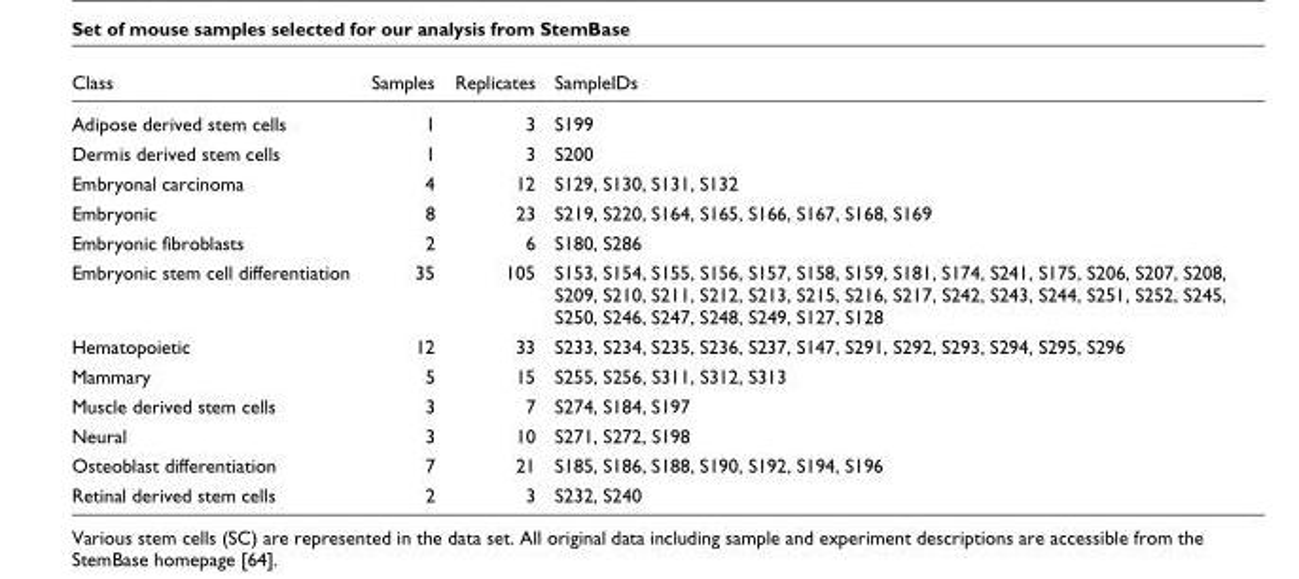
<table><thead><tr><td>Class</td><td>Samples</td><td>Replicates</td><td>SampleIDs</td></tr></thead><tbody><tr><td>Adipose derived stem cells</td><td>1</td><td>3</td><td>S199</td></tr><tr><td>Dermis derived stem cells</td><td>1</td><td>3</td><td>S200</td></tr><tr><td>Embryonal carcinoma</td><td>4</td><td>12</td><td>S129, S130, S131, S132</td></tr><tr><td>Embryonic</td><td>8</td><td>23</td><td>S219, S220, S164, S165, S166, S167, S168, S169</td></tr><tr><td>Embryonic fibroblasts</td><td>2</td><td>6</td><td>S180, S286</td></tr><tr><td>Embryonic stem cell differentiation</td><td>35</td><td>105</td><td>S153, S154, S155, S156, S157, S158, S159, S181, S174, S241, S175, S206, S207, S208, S209, S210, S211, S212, S213, S215, S216, S217, S242, S243, S244, S251, S252, S245, S250, S246, S247, S248, S249, S127, S128</td></tr><tr><td>Hematopoietic</td><td>12</td><td>33</td><td>S233, S234, S235, S236, S237, S147, S291, S292, S293, S294, S295, S296</td></tr><tr><td>Mammary</td><td>5</td><td>15</td><td>S255, S256, S311, S312, S313</td></tr><tr><td>Muscle derived stem cells</td><td>3</td><td>7</td><td>S274, S184, S197</td></tr><tr><td>Neural</td><td>3</td><td>10</td><td>S271, S272, S198</td></tr><tr><td>Osteoblast differentiation</td><td>7</td><td>21</td><td>S185, S186, S188, S190, S192, S194, S196</td></tr><tr><td>Retinal derived stem cells</td><td>2</td><td>3</td><td>S232, S240</td></tr></tbody></table>